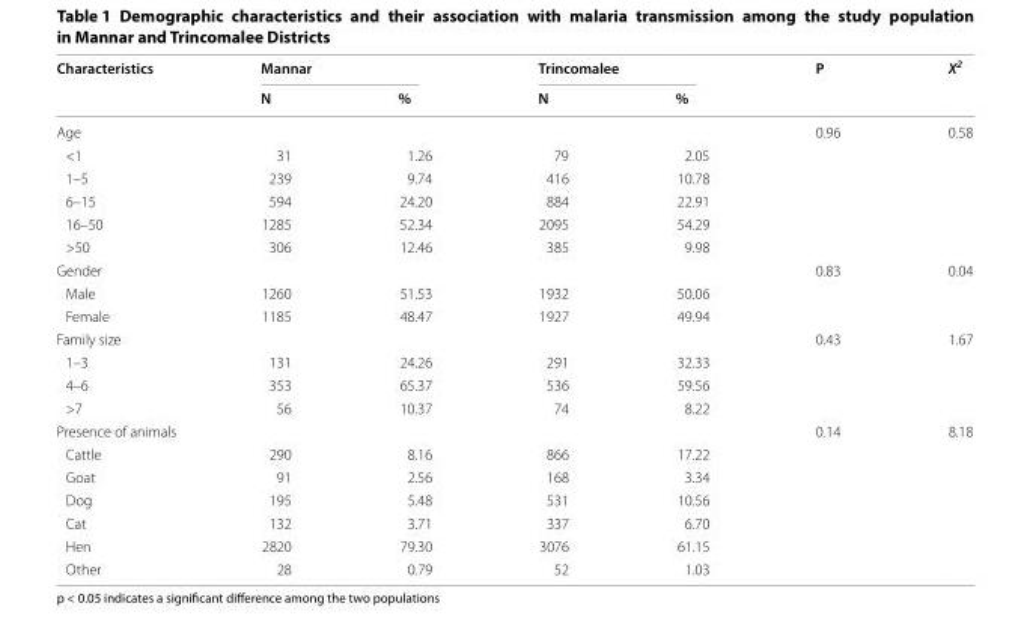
<table><thead><tr><td rowspan="2">Characteristics</td><td colspan="2">Mannar</td><td colspan="2">Trincomalee</td><td rowspan="2">P</td><td rowspan="2">X<sup>2</sup></td></tr><tr><td>N</td><td>%</td><td>N</td><td>%</td></tr></thead><tbody><tr><td colspan="5">Age</td><td rowspan="6">0.96</td><td rowspan="6">0.58</td></tr><tr><td>&lt;1</td><td>31</td><td>1.26</td><td>79</td><td>2.05</td></tr><tr><td>1–5</td><td>239</td><td>9.74</td><td>416</td><td>10.78</td></tr><tr><td>6–15</td><td>594</td><td>24.20</td><td>884</td><td>22.91</td></tr><tr><td>16–50</td><td>1285</td><td>52.34</td><td>2095</td><td>54.29</td></tr><tr><td>&gt;50</td><td>306</td><td>12.46</td><td>385</td><td>9.98</td></tr><tr><td colspan="5">Gender</td><td rowspan="3">0.83</td><td rowspan="3">0.04</td></tr><tr><td>Male</td><td>1260</td><td>51.53</td><td>1932</td><td>50.06</td></tr><tr><td>Female</td><td>1185</td><td>48.47</td><td>1927</td><td>49.94</td></tr><tr><td colspan="5">Family size</td><td rowspan="4">0.43</td><td rowspan="4">1.67</td></tr><tr><td>1–3</td><td>131</td><td>24.26</td><td>291</td><td>32.33</td></tr><tr><td>4–6</td><td>353</td><td>65.37</td><td>536</td><td>59.56</td></tr><tr><td>&gt;7</td><td>56</td><td>10.37</td><td>74</td><td>8.22</td></tr><tr><td colspan="5">Presence of animals</td><td rowspan="7">0.14</td><td rowspan="7">8.18</td></tr><tr><td>Cattle</td><td>290</td><td>8.16</td><td>866</td><td>17.22</td></tr><tr><td>Goat</td><td>91</td><td>2.56</td><td>168</td><td>3.34</td></tr><tr><td>Dog</td><td>195</td><td>5.48</td><td>531</td><td>10.56</td></tr><tr><td>Cat</td><td>132</td><td>3.71</td><td>337</td><td>6.70</td></tr><tr><td>Hen</td><td>2820</td><td>79.30</td><td>3076</td><td>61.15</td></tr><tr><td>Other</td><td>28</td><td>0.79</td><td>52</td><td>1.03</td></tr></tbody></table>